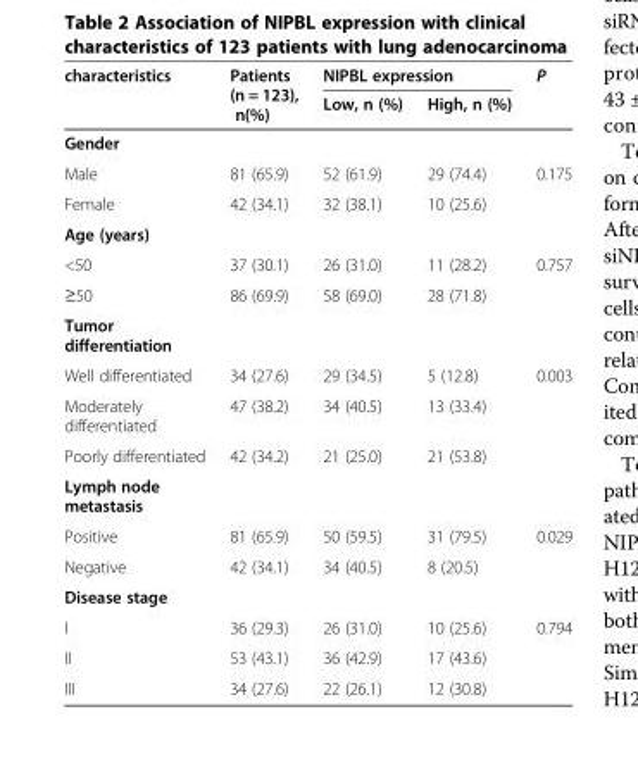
<table><thead><tr><td rowspan="2">characteristics</td><td rowspan="2">Patients (n = 123), n(%)</td><td colspan="2">NIPBL expression</td><td rowspan="2">P</td></tr><tr><td>Low, n (%)</td><td>High, n (%)</td></tr></thead><tbody><tr><td colspan="5">Gender</td></tr><tr><td>Male</td><td>81 (65.9)</td><td>52 (61.9)</td><td>29 (74.4)</td><td>0.175</td></tr><tr><td>Female</td><td>42 (34.1)</td><td>32 (38.1)</td><td>10 (25.6)</td><td></td></tr><tr><td colspan="5">Age (years)</td></tr><tr><td>&lt;50</td><td>37 (30.1)</td><td>26 (31.0)</td><td>11 (28.2)</td><td>0.757</td></tr><tr><td>≥50</td><td>86 (69.9)</td><td>58 (69.0)</td><td>28 (71.8)</td><td></td></tr><tr><td colspan="5">Tumor differentiation</td></tr><tr><td>Well differentiated</td><td>34 (27.6)</td><td>29 (34.5)</td><td>5 (12.8)</td><td>0.003</td></tr><tr><td>Moderately differentiated</td><td>47 (38.2)</td><td>34 (40.5)</td><td>13 (33.4)</td><td></td></tr><tr><td>Poorly differentiated</td><td>42 (34.2)</td><td>21 (25.0)</td><td>21 (53.8)</td><td></td></tr><tr><td colspan="5">Lymph node metastasis</td></tr><tr><td>Positive</td><td>81 (65.9)</td><td>50 (59.5)</td><td>31 (79.5)</td><td>0.029</td></tr><tr><td>Negative</td><td>42 (34.1)</td><td>34 (40.5)</td><td>8 (20.5)</td><td></td></tr><tr><td colspan="5">Disease stage</td></tr><tr><td>I</td><td>36 (29.3)</td><td>26 (31.0)</td><td>10 (25.6)</td><td>0.794</td></tr><tr><td>II</td><td>53 (43.1)</td><td>36 (42.9)</td><td>17 (43.6)</td><td></td></tr><tr><td>III</td><td>34 (27.6)</td><td>22 (26.1)</td><td>12 (30.8)</td><td></td></tr></tbody></table>